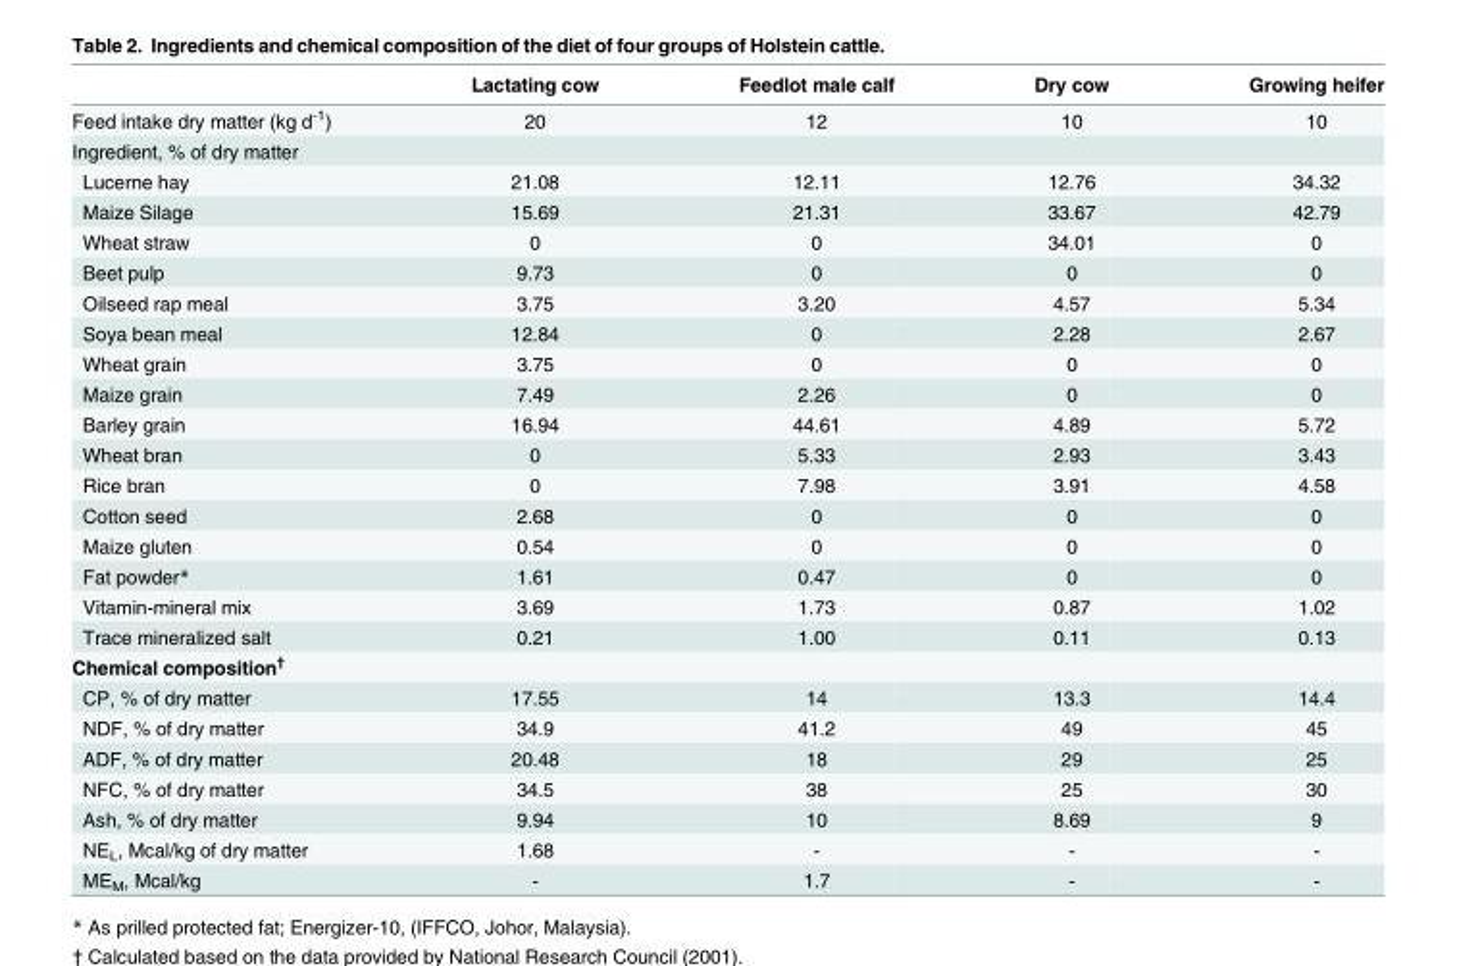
<table><thead><tr><td></td><td>Lactating cow</td><td>Feedlot male calf</td><td>Dry cow</td><td>Growing heifer</td></tr></thead><tbody><tr><td>Feed intake dry matter (kg d<sup>-1</sup>)</td><td>20</td><td>12</td><td>10</td><td>10</td></tr><tr><td colspan="5">Ingredient, % of dry matter</td></tr><tr><td>Lucerne hay</td><td>21.08</td><td>12.11</td><td>12.76</td><td>34.32</td></tr><tr><td>Maize Silage</td><td>15.69</td><td>21.31</td><td>33.67</td><td>42.79</td></tr><tr><td>Wheat straw</td><td>0</td><td>0</td><td>34.01</td><td>0</td></tr><tr><td>Beet pulp</td><td>9.73</td><td>0</td><td>0</td><td>0</td></tr><tr><td>Oilseed rap meal</td><td>3.75</td><td>3.20</td><td>4.57</td><td>5.34</td></tr><tr><td>Soya bean meal</td><td>12.84</td><td>0</td><td>2.28</td><td>2.67</td></tr><tr><td>Wheat grain</td><td>3.75</td><td>0</td><td>0</td><td>0</td></tr><tr><td>Maize grain</td><td>7.49</td><td>2.26</td><td>0</td><td>0</td></tr><tr><td>Barley grain</td><td>16.94</td><td>44.61</td><td>4.89</td><td>5.72</td></tr><tr><td>Wheat bran</td><td>0</td><td>5.33</td><td>2.93</td><td>3.43</td></tr><tr><td>Rice bran</td><td>0</td><td>7.98</td><td>3.91</td><td>4.58</td></tr><tr><td>Cotton seed</td><td>2.68</td><td>0</td><td>0</td><td>0</td></tr><tr><td>Maize gluten</td><td>0.54</td><td>0</td><td>0</td><td>0</td></tr><tr><td>Fat powder*</td><td>1.61</td><td>0.47</td><td>0</td><td>0</td></tr><tr><td>Vitamin-mineral mix</td><td>3.69</td><td>1.73</td><td>0.87</td><td>1.02</td></tr><tr><td>Trace mineralized salt</td><td>0.21</td><td>1.00</td><td>0.11</td><td>0.13</td></tr><tr><td colspan="5">Chemical composition<sup>†</sup></td></tr><tr><td>CP, % of dry matter</td><td>17.55</td><td>14</td><td>13.3</td><td>14.4</td></tr><tr><td>NDF, % of dry matter</td><td>34.9</td><td>41.2</td><td>49</td><td>45</td></tr><tr><td>ADF, % of dry matter</td><td>20.48</td><td>18</td><td>29</td><td>25</td></tr><tr><td>NFC, % of dry matter</td><td>34.5</td><td>38</td><td>25</td><td>30</td></tr><tr><td>Ash, % of dry matter</td><td>9.94</td><td>10</td><td>8.69</td><td>9</td></tr><tr><td>NE<sub>L</sub>, Mcal/kg of dry matter</td><td>1.68</td><td>-</td><td>-</td><td>-</td></tr><tr><td>ME<sub>M</sub>, Mcal/kg</td><td>-</td><td>1.7</td><td>-</td><td>-</td></tr></tbody></table>